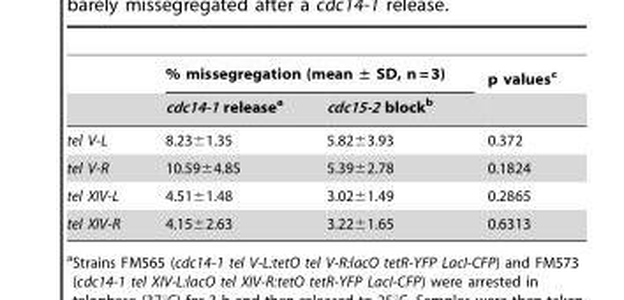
<table><thead><tr><td rowspan="2"></td><td colspan="2">% missegregation (mean ± SD, n = 3)</td><td rowspan="2">p values<sup>c</sup></td></tr><tr><td>cdc14-1 release<sup>a</sup></td><td>cdc15-2 block<sup>b</sup></td></tr></thead><tbody><tr><td>tel V-L</td><td>8.23±1.35</td><td>5.82±3.93</td><td>0.372</td></tr><tr><td>tel V-R</td><td>10.59±4.85</td><td>5.39±2.78</td><td>0.1824</td></tr><tr><td>tel XIV-L</td><td>4.51±1.48</td><td>3.02±1.49</td><td>0.2865</td></tr><tr><td>tel XIV-R</td><td>4.15±2.63</td><td>3.22±1.65</td><td>0.6313</td></tr></tbody></table>